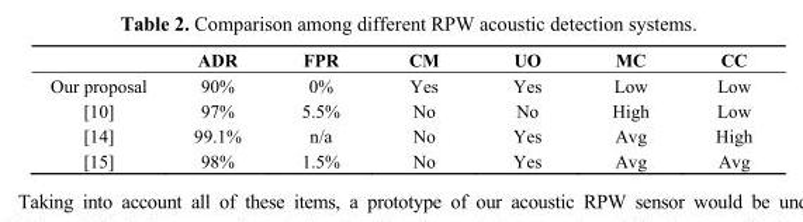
<table><thead><tr><td></td><td>ADR</td><td>FPR</td><td>CM</td><td>UO</td><td>MC</td><td>CC</td></tr></thead><tbody><tr><td>Our proposal</td><td>90%</td><td>0%</td><td>Yes</td><td>Yes</td><td>Low</td><td>Low</td></tr><tr><td>[10]</td><td>97%</td><td>5.5%</td><td>No</td><td>No</td><td>High</td><td>Low</td></tr><tr><td>[14]</td><td>99.1%</td><td>n/a</td><td>No</td><td>Yes</td><td>Avg</td><td>High</td></tr><tr><td>[15]</td><td>98%</td><td>1.5%</td><td>No</td><td>Yes</td><td>Avg</td><td>Avg</td></tr></tbody></table>